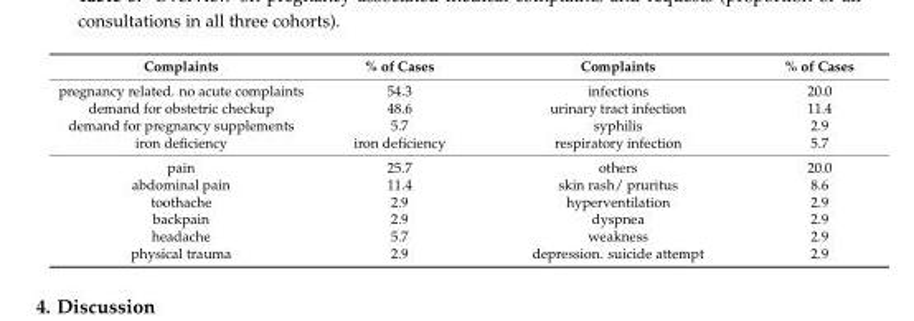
<table><thead><tr><td>Complaints</td><td>% of Cases</td><td>Complaints</td><td>% of Cases</td></tr></thead><tbody><tr><td>pregnancy related. no acute complaints</td><td>54.3</td><td>infections</td><td>20.0</td></tr><tr><td>demand for obstetric checkup</td><td>48.6</td><td>urinary tract infection</td><td>11.4</td></tr><tr><td>demand for pregnancy supplements</td><td>5.7</td><td>syphilis</td><td>2.9</td></tr><tr><td>iron deficiency</td><td>iron deficiency</td><td>respiratory infection</td><td>5.7</td></tr><tr><td>pain</td><td>25.7</td><td>others</td><td>20.0</td></tr><tr><td>abdominal pain</td><td>11.4</td><td>skin rash/ pruritus</td><td>8.6</td></tr><tr><td>toothache</td><td>2.9</td><td>hyperventilation</td><td>2.9</td></tr><tr><td>backpain</td><td>2.9</td><td>dyspnea</td><td>2.9</td></tr><tr><td>headache</td><td>5.7</td><td>weakness</td><td>2.9</td></tr><tr><td>physical trauma</td><td>2.9</td><td>depression. suicide attempt</td><td>2.9</td></tr></tbody></table>